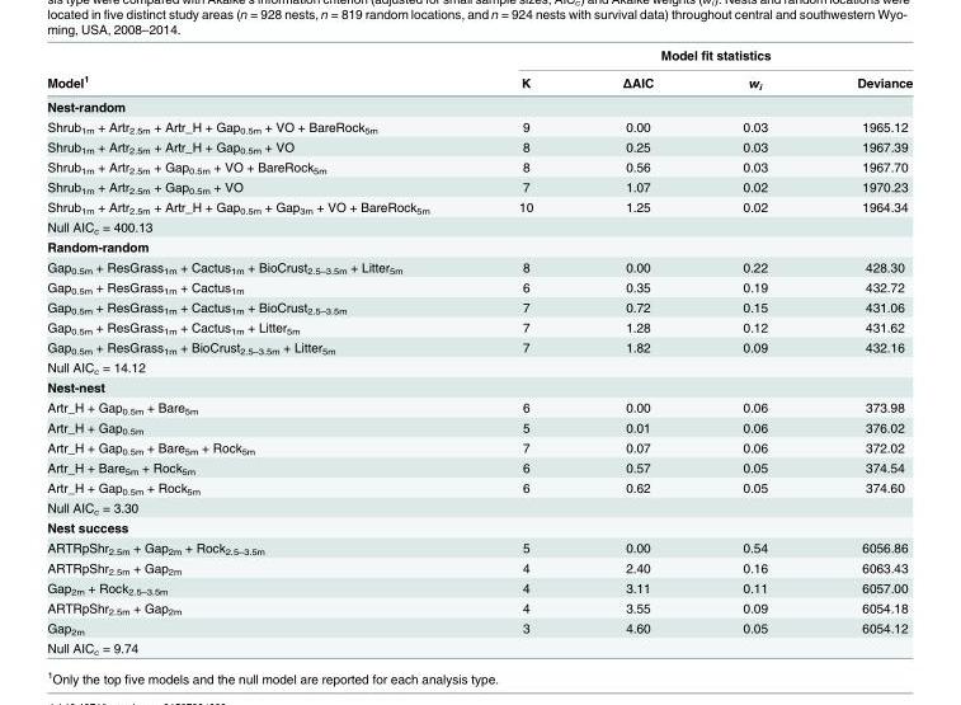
<table><thead><tr><td rowspan="2">Model<sup>1</sup></td><td colspan="4">Model fit statistics</td></tr><tr><td>K</td><td>ΔAIC</td><td>w<sub>i</sub></td><td>Deviance</td></tr></thead><tbody><tr><td colspan="5">Nest-random</td></tr><tr><td>Shrub<sub>1m</sub> + Artr<sub>2.5m</sub> + Artr_H + Gap<sub>0.5m</sub> + VO + BareRock<sub>5m</sub></td><td>9</td><td>0.00</td><td>0.03</td><td>1965.12</td></tr><tr><td>Shrub<sub>1m</sub> + Artr<sub>2.5m</sub> + Artr_H + Gap<sub>0.5m</sub> + VO</td><td>8</td><td>0.25</td><td>0.03</td><td>1967.39</td></tr><tr><td>Shrub<sub>1m</sub> + Artr<sub>2.5m</sub> + Gap<sub>0.5m</sub> + VO + BareRock<sub>5m</sub></td><td>8</td><td>0.56</td><td>0.03</td><td>1967.70</td></tr><tr><td>Shrub<sub>1m</sub> + Artr<sub>2.5m</sub> + Gap<sub>0.5m</sub> + VO</td><td>7</td><td>1.07</td><td>0.02</td><td>1970.23</td></tr><tr><td>Shrub<sub>1m</sub> + Artr<sub>2.5m</sub> + Artr_H + Gap<sub>0.5m</sub> + Gap<sub>3m</sub> + VO + BareRock<sub>5m</sub></td><td>10</td><td>1.25</td><td>0.02</td><td>1964.34</td></tr><tr><td colspan="5">Null AIC<sub>c</sub> = 400.13</td></tr><tr><td colspan="5">Random-random</td></tr><tr><td>Gap<sub>0.5m</sub> + ResGrass<sub>1m</sub> + Cactus<sub>1m</sub> + BioCrust<sub>2.5–3.5m</sub> + Litter<sub>5m</sub></td><td>8</td><td>0.00</td><td>0.22</td><td>428.30</td></tr><tr><td>Gap<sub>0.5m</sub> + ResGrass<sub>1m</sub> + Cactus<sub>1m</sub></td><td>6</td><td>0.35</td><td>0.19</td><td>432.72</td></tr><tr><td>Gap<sub>0.5m</sub> + ResGrass<sub>1m</sub> + Cactus<sub>1m</sub> + BioCrust<sub>2.5–3.5m</sub></td><td>7</td><td>0.72</td><td>0.15</td><td>431.06</td></tr><tr><td>Gap<sub>0.5m</sub> + ResGrass<sub>1m</sub> + Cactus<sub>1m</sub> + Litter<sub>5m</sub></td><td>7</td><td>1.28</td><td>0.12</td><td>431.62</td></tr><tr><td>Gap<sub>0.5m</sub> + ResGrass<sub>1m</sub> + BioCrust<sub>2.5–3.5m</sub> + Litter<sub>5m</sub></td><td>7</td><td>1.82</td><td>0.09</td><td>432.16</td></tr><tr><td colspan="5">Null AIC<sub>c</sub> = 14.12</td></tr><tr><td colspan="5">Nest-nest</td></tr><tr><td>Artr_H + Gap<sub>0.5m</sub> + Bare<sub>5m</sub></td><td>6</td><td>0.00</td><td>0.06</td><td>373.98</td></tr><tr><td>Artr_H + Gap<sub>0.5m</sub></td><td>5</td><td>0.01</td><td>0.06</td><td>376.02</td></tr><tr><td>Artr_H + Gap<sub>0.5m</sub> + Bare<sub>5m</sub> + Rock<sub>5m</sub></td><td>7</td><td>0.07</td><td>0.06</td><td>372.02</td></tr><tr><td>Artr_H + Bare<sub>5m</sub> + Rock<sub>5m</sub></td><td>6</td><td>0.57</td><td>0.05</td><td>374.54</td></tr><tr><td>Artr_H + Gap<sub>0.5m</sub> + Rock<sub>5m</sub></td><td>6</td><td>0.62</td><td>0.05</td><td>374.60</td></tr><tr><td colspan="5">Null AIC<sub>c</sub> = 3.30</td></tr><tr><td colspan="5">Nest success</td></tr><tr><td>ARTRpShr<sub>2.5m</sub> + Gap<sub>2m</sub> + Rock<sub>2.5–3.5m</sub></td><td>5</td><td>0.00</td><td>0.54</td><td>6056.86</td></tr><tr><td>ARTRpShr<sub>2.5m</sub> + Gap<sub>2m</sub></td><td>4</td><td>2.40</td><td>0.16</td><td>6063.43</td></tr><tr><td>Gap<sub>2m</sub> + Rock<sub>2.5–3.5m</sub></td><td>4</td><td>3.11</td><td>0.11</td><td>6057.00</td></tr><tr><td>ARTRpShr<sub>2.5m</sub> + Gap<sub>2m</sub></td><td>4</td><td>3.55</td><td>0.09</td><td>6054.18</td></tr><tr><td>Gap<sub>2m</sub></td><td>3</td><td>4.60</td><td>0.05</td><td>6054.12</td></tr><tr><td>Null AIC<sub>c</sub> = 9.74</td><td></td><td></td><td></td><td></td></tr></tbody></table>